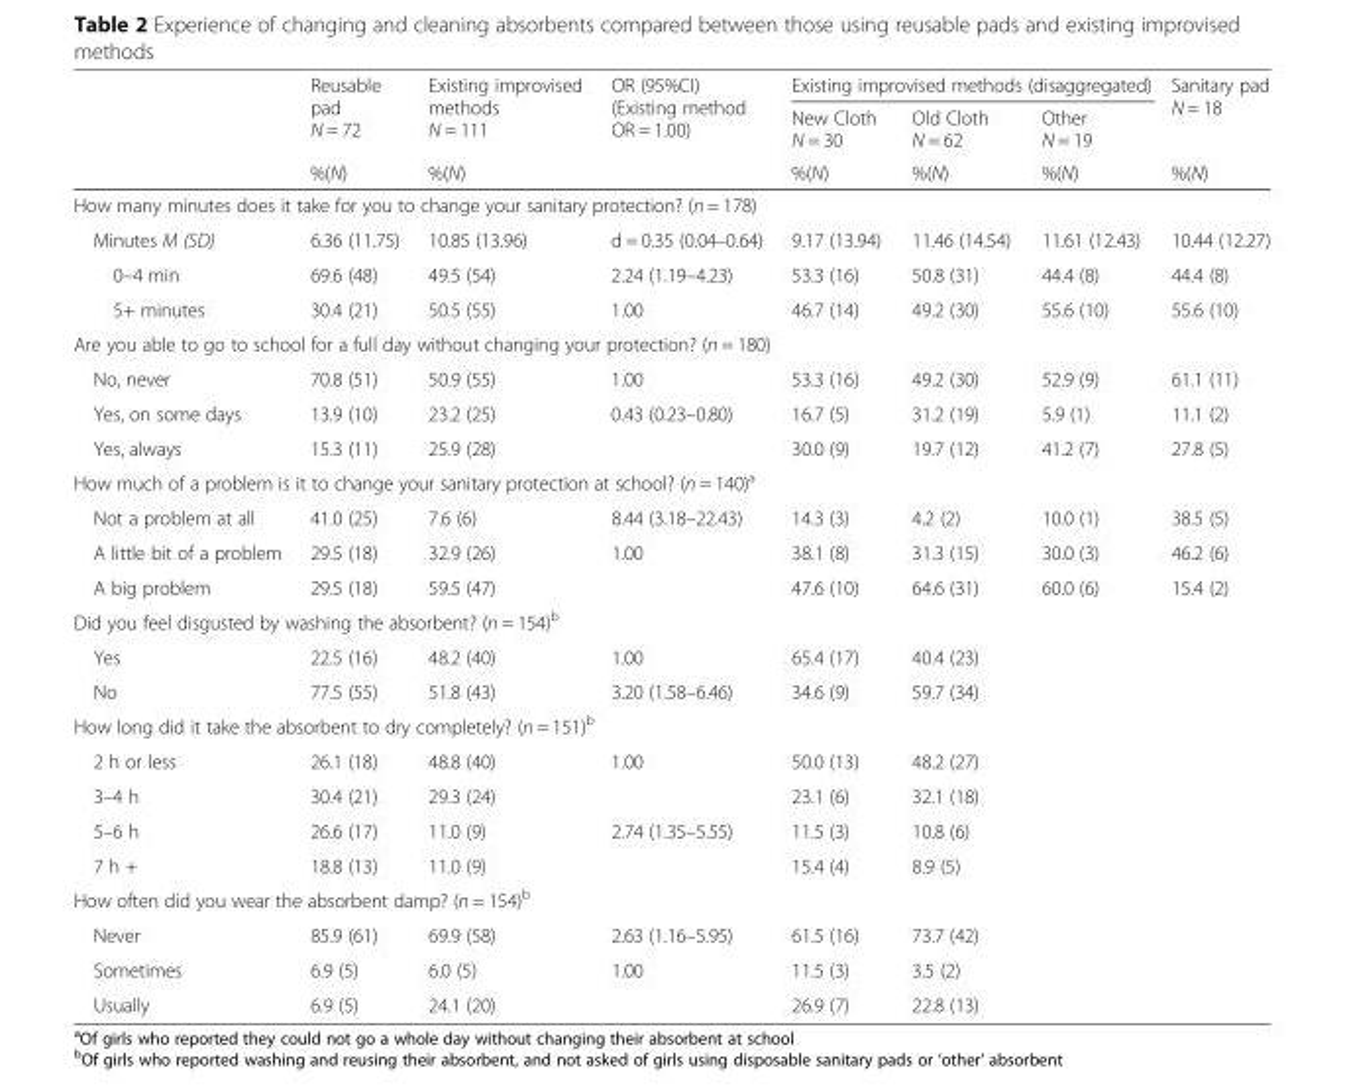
<table><thead><tr><td rowspan="3"></td><td rowspan="3">Reusable pad N = 72 %(N)</td><td rowspan="3">Existing improvised methods N = 111 %(N)</td><td rowspan="3">OR (95%CI) (Existing method OR = 1.00)</td><td colspan="3">Existing improvised methods (disaggregated)</td><td rowspan="3">Sanitary pad N = 18 %(N)</td></tr><tr><td rowspan="2">New Cloth N = 30 %(N)</td><td rowspan="2">Old Cloth N = 62 %(N)</td><td rowspan="2">Other N = 19 %(N)</td></tr><tr></tr></thead><tbody><tr><td colspan="8">How many minutes does it take for you to change your sanitary protection? (n = 178)</td></tr><tr><td>Minutes M (SD)</td><td>6.36 (11.75)</td><td>10.85 (13.96)</td><td>d = 0.35 (0.04–0.64)</td><td>9.17 (13.94)</td><td>11.46 (14.54)</td><td>11.61 (12.43)</td><td>10.44 (12.27)</td></tr><tr><td>0–4 min</td><td>69.6 (48)</td><td>49.5 (54)</td><td>2.24 (1.19–4.23)</td><td>53.3 (16)</td><td>50.8 (31)</td><td>44.4 (8)</td><td>44.4 (8)</td></tr><tr><td>5+ minutes</td><td>30.4 (21)</td><td>50.5 (55)</td><td>1.00</td><td>46.7 (14)</td><td>49.2 (30)</td><td>55.6 (10)</td><td>55.6 (10)</td></tr><tr><td colspan="8">Are you able to go to school for a full day without changing your protection? (n = 180)</td></tr><tr><td>No, never</td><td>70.8 (51)</td><td>50.9 (55)</td><td>1.00</td><td>53.3 (16)</td><td>49.2 (30)</td><td>52.9 (9)</td><td>61.1 (11)</td></tr><tr><td>Yes, on some days</td><td>13.9 (10)</td><td>23.2 (25)</td><td rowspan="2">0.43 (0.23–0.80)</td><td>16.7 (5)</td><td>31.2 (19)</td><td>5.9 (1)</td><td>11.1 (2)</td></tr><tr><td>Yes, always</td><td>15.3 (11)</td><td>25.9 (28)</td><td>30.0 (9)</td><td>19.7 (12)</td><td>41.2 (7)</td><td>27.8 (5)</td></tr><tr><td colspan="8">How much of a problem is it to change your sanitary protection at school? (n = 140)<sup>a</sup></td></tr><tr><td>Not a problem at all</td><td>41.0 (25)</td><td>7.6 (6)</td><td>8.44 (3.18–22.43)</td><td>14.3 (3)</td><td>4.2 (2)</td><td>10.0 (1)</td><td>38.5 (5)</td></tr><tr><td>A little bit of a problem</td><td>29.5 (18)</td><td>32.9 (26)</td><td rowspan="2">1.00</td><td>38.1 (8)</td><td>31.3 (15)</td><td>30.0 (3)</td><td>46.2 (6)</td></tr><tr><td>A big problem</td><td>29.5 (18)</td><td>59.5 (47)</td><td>47.6 (10)</td><td>64.6 (31)</td><td>60.0 (6)</td><td>15.4 (2)</td></tr><tr><td colspan="8">Did you feel disgusted by washing the absorbent? (n = 154)<sup>b</sup></td></tr><tr><td>Yes</td><td>22.5 (16)</td><td>48.2 (40)</td><td>1.00</td><td>65.4 (17)</td><td>40.4 (23)</td><td></td><td></td></tr><tr><td>No</td><td>77.5 (55)</td><td>51.8 (43)</td><td>3.20 (1.58–6.46)</td><td>34.6 (9)</td><td>59.7 (34)</td><td></td><td></td></tr><tr><td colspan="8">How long did it take the absorbent to dry completely? (n = 151)<sup>b</sup></td></tr><tr><td>2 h or less</td><td>26.1 (18)</td><td>48.8 (40)</td><td rowspan="2">1.00</td><td>50.0 (13)</td><td>48.2 (27)</td><td></td><td></td></tr><tr><td>3–4 h</td><td>30.4 (21)</td><td>29.3 (24)</td><td>23.1 (6)</td><td>32.1 (18)</td><td></td><td></td></tr><tr><td>5–6 h</td><td>26.6 (17)</td><td>11.0 (9)</td><td rowspan="2">2.74 (1.35–5.55)</td><td>11.5 (3)</td><td>10.8 (6)</td><td></td><td></td></tr><tr><td>7 h +</td><td>18.8 (13)</td><td>11.0 (9)</td><td>15.4 (4)</td><td>8.9 (5)</td><td></td><td></td></tr><tr><td colspan="8">How often did you wear the absorbent damp? (n = 154)<sup>b</sup></td></tr><tr><td>Never</td><td>85.9 (61)</td><td>69.9 (58)</td><td>2.63 (1.16–5.95)</td><td>61.5 (16)</td><td>73.7 (42)</td><td></td><td></td></tr><tr><td>Sometimes</td><td>6.9 (5)</td><td>6.0 (5)</td><td rowspan="2">1.00</td><td>11.5 (3)</td><td>3.5 (2)</td><td></td><td></td></tr><tr><td>Usually</td><td>6.9 (5)</td><td>24.1 (20)</td><td>26.9 (7)</td><td>22.8 (13)</td><td></td><td></td></tr></tbody></table>